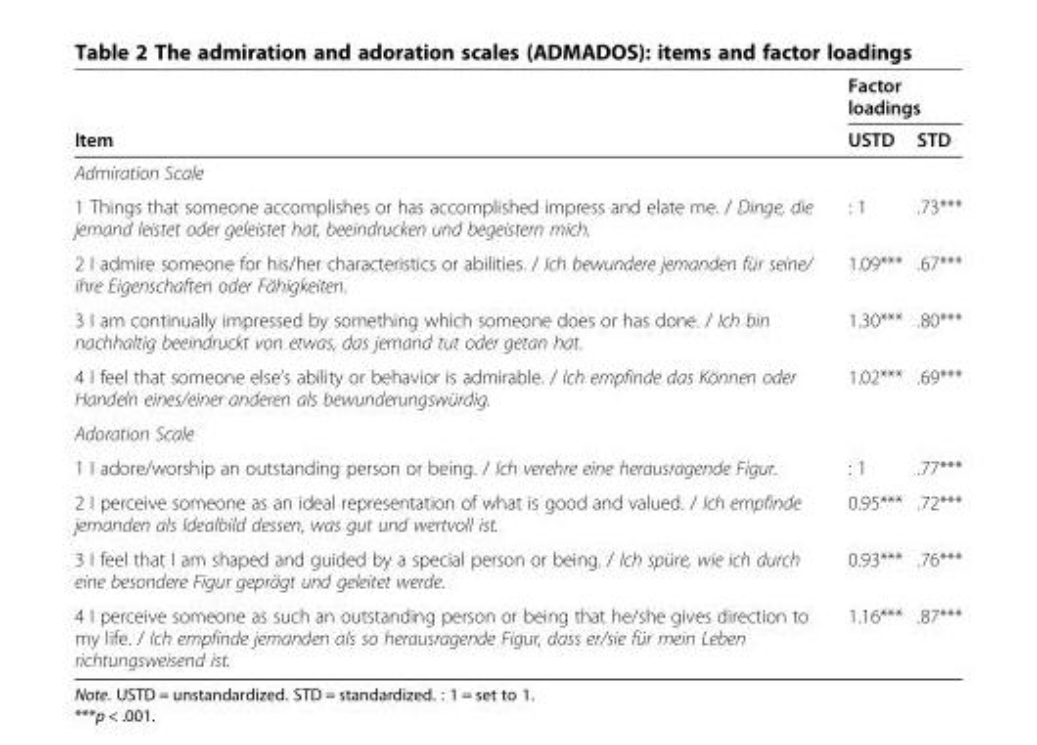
<table><thead><tr><td rowspan="2">Item</td><td colspan="2">Factor loadings</td></tr><tr><td>USTD</td><td>STD</td></tr></thead><tbody><tr><td colspan="3">Admiration Scale</td></tr><tr><td>1 Things that someone accomplishes or has accomplished impress and elate me. / Dinge, die jemand leistet oder geleistet hat, beeindrucken und begeistern mich.</td><td>: 1</td><td>.73***</td></tr><tr><td>2 I admire someone for his/her characteristics or abilities. / Ich bewundere jemanden für seine/ ihre Eigenschaften oder Fähigkeiten.</td><td>1.09***</td><td>.67***</td></tr><tr><td>3 I am continually impressed by something which someone does or has done. / Ich bin nachhaltig beeindruckt von etwas, das jemand tut oder getan hat.</td><td>1.30***</td><td>.80***</td></tr><tr><td>4 I feel that someone else’s ability or behavior is admirable. / Ich empfinde das Können oder Handeln eines/einer anderen als bewunderungswürdig.</td><td>1.02***</td><td>.69***</td></tr><tr><td colspan="3">Adoration Scale</td></tr><tr><td>1 I adore/worship an outstanding person or being. / Ich verehre eine herausragende Figur.</td><td>: 1</td><td>.77***</td></tr><tr><td>2 I perceive someone as an ideal representation of what is good and valued. / Ich empfinde jemanden als Idealbild dessen, was gut und wertvoll ist.</td><td>0.95***</td><td>.72***</td></tr><tr><td>3 I feel that I am shaped and guided by a special person or being. / Ich spüre, wie ich durch eine besondere Figur geprägt und geleitet werde.</td><td>0.93***</td><td>.76***</td></tr><tr><td>4 I perceive someone as such an outstanding person or being that he/she gives direction to my life. / Ich empfinde jemanden als so herausragende Figur, dass er/sie für mein Leben richtungsweisend ist.</td><td>1.16***</td><td>.87***</td></tr></tbody></table>